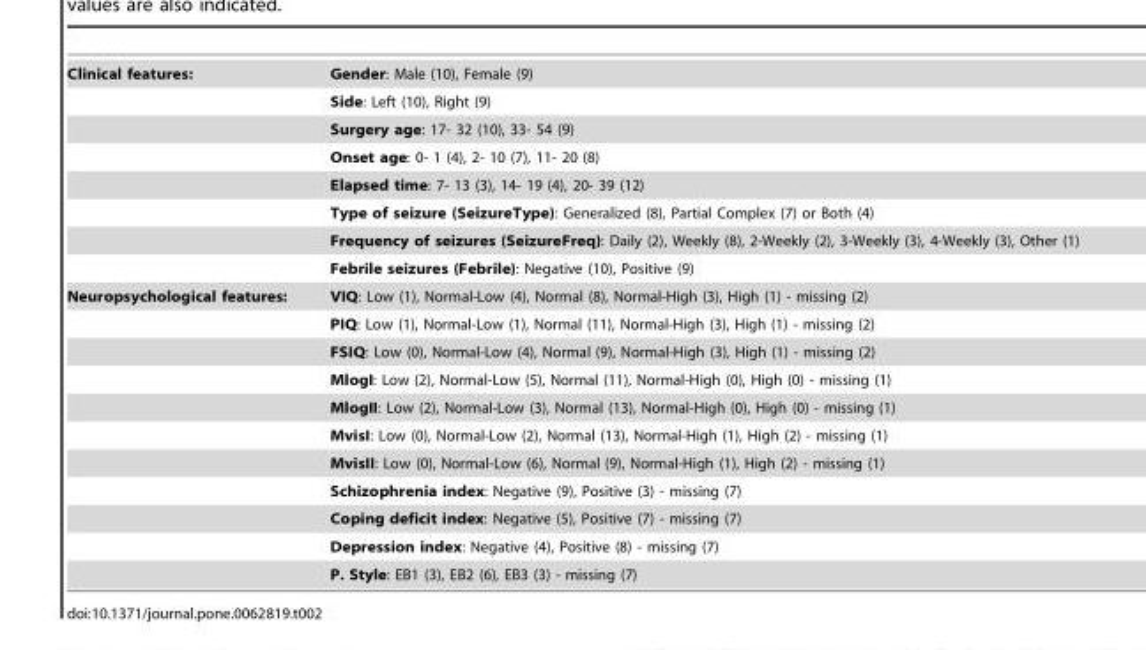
<table><tbody><tr><td rowspan="8">Clinical features:</td><td>Gender: Male (10), Female (9)</td></tr><tr><td>Side: Left (10), Right (9)</td></tr><tr><td>Surgery age: 17- 32 (10), 33- 54 (9)</td></tr><tr><td>Onset age: 0- 1 (4), 2- 10 (7), 11- 20 (8)</td></tr><tr><td>Elapsed time: 7- 13 (3), 14- 19 (4), 20- 39 (12)</td></tr><tr><td>Type of seizure (SeizureType): Generalized (8), Partial Complex (7) or Both (4)</td></tr><tr><td>Frequency of seizures (SeizureFreq): Daily (2), Weekly (8), 2-Weekly (2), 3-Weekly (3), 4-Weekly (3), Other (1)</td></tr><tr><td>Febrile seizures (Febrile): Negative (10), Positive (9)</td></tr><tr><td rowspan="11">Neuropsychological features:</td><td>VIQ: Low (1), Normal-Low (4), Normal (8), Normal-High (3), High (1) - missing (2)</td></tr><tr><td>PIQ: Low (1), Normal-Low (1), Normal (11), Normal-High (3), High (1) - missing (2)</td></tr><tr><td>FSIQ: Low (0), Normal-Low (4), Normal (9), Normal-High (3), High (1) - missing (2)</td></tr><tr><td>MlogI: Low (2), Normal-Low (5), Normal (11), Normal-High (0), High (0) - missing (1)</td></tr><tr><td>MlogII: Low (2), Normal-Low (3), Normal (13), Normal-High (0), High (0) - missing (1)</td></tr><tr><td>MvisI: Low (0), Normal-Low (2), Normal (13), Normal-High (1), High (2) - missing (1)</td></tr><tr><td>MvisII: Low (0), Normal-Low (6), Normal (9), Normal-High (1), High (2) - missing (1)</td></tr><tr><td>Schizophrenia index: Negative (9), Positive (3) - missing (7)</td></tr><tr><td>Coping deficit index: Negative (5), Positive (7) - missing (7)</td></tr><tr><td>Depression index: Negative (4), Positive (8) - missing (7)</td></tr><tr><td>P. Style: EB1 (3), EB2 (6), EB3 (3) - missing (7)</td></tr></tbody></table>